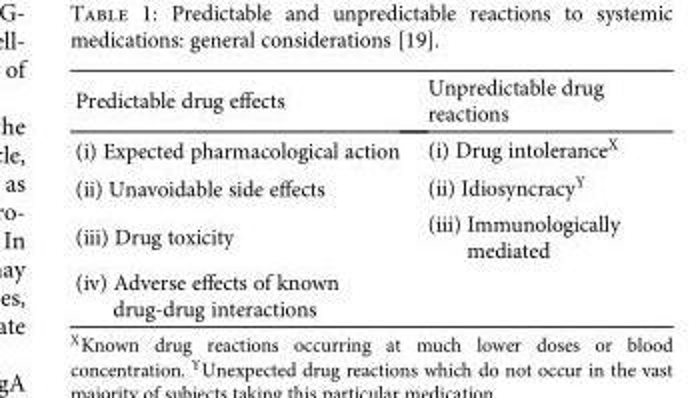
<table><thead><tr><td>Predictable drug effects</td><td>Unpredictable drug reactions</td></tr></thead><tbody><tr><td>(i) Expected pharmacological action</td><td>(i) Drug intolerance<sup>X</sup></td></tr><tr><td>(ii) Unavoidable side effects</td><td>(ii) Idiosyncracy<sup>Y</sup></td></tr><tr><td>(iii) Drug toxicity</td><td>(iii) Immunologically mediated</td></tr><tr><td>(iv) Adverse effects of known drug-drug interactions</td><td></td></tr></tbody></table>